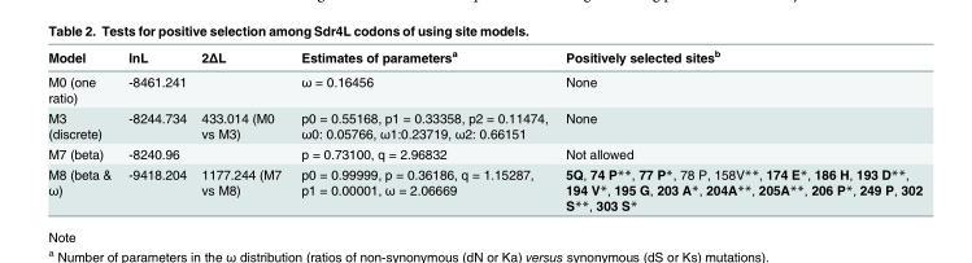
<table><thead><tr><td>Model</td><td>InL</td><td>2ΔL</td><td>Estimates of parameters<sup>a</sup></td><td>Positively selected sites<sup>b</sup></td></tr></thead><tbody><tr><td>M0 (one ratio)</td><td>-8461.241</td><td></td><td>ω = 0.16456</td><td>None</td></tr><tr><td>M3 (discrete)</td><td>-8244.734</td><td>433.014 (M0 vs M3)</td><td>p0 = 0.55168, p1 = 0.33358, p2 = 0.11474, ω0: 0.05766, ω1:0.23719, ω2: 0.66151</td><td>None</td></tr><tr><td>M7 (beta)</td><td>-8240.96</td><td></td><td>p = 0.73100, q = 2.96832</td><td>Not allowed</td></tr><tr><td>M8 (beta &amp; ω)</td><td>-9418.204</td><td>1177.244 (M7 vs M8)</td><td>p0 = 0.99999, p = 0.36186, q = 1.15287, p1 = 0.00001, ω = 2.06669</td><td>5Q, 74 P**, 77 P*, 78 P, 158V**, 174 E*, 186 H, 193 D**, 194 V*, 195 G, 203 A*, 204A**, 205A**, 206 P*, 249 P, 302 S**, 303 S*</td></tr></tbody></table>